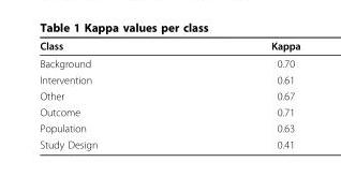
<table><thead><tr><td>Class</td><td>Kappa</td></tr></thead><tbody><tr><td>Background</td><td>0.70</td></tr><tr><td>Intervention</td><td>0.61</td></tr><tr><td>Other</td><td>0.67</td></tr><tr><td>Outcome</td><td>0.71</td></tr><tr><td>Population</td><td>0.63</td></tr><tr><td>Study Design</td><td>0.41</td></tr></tbody></table>